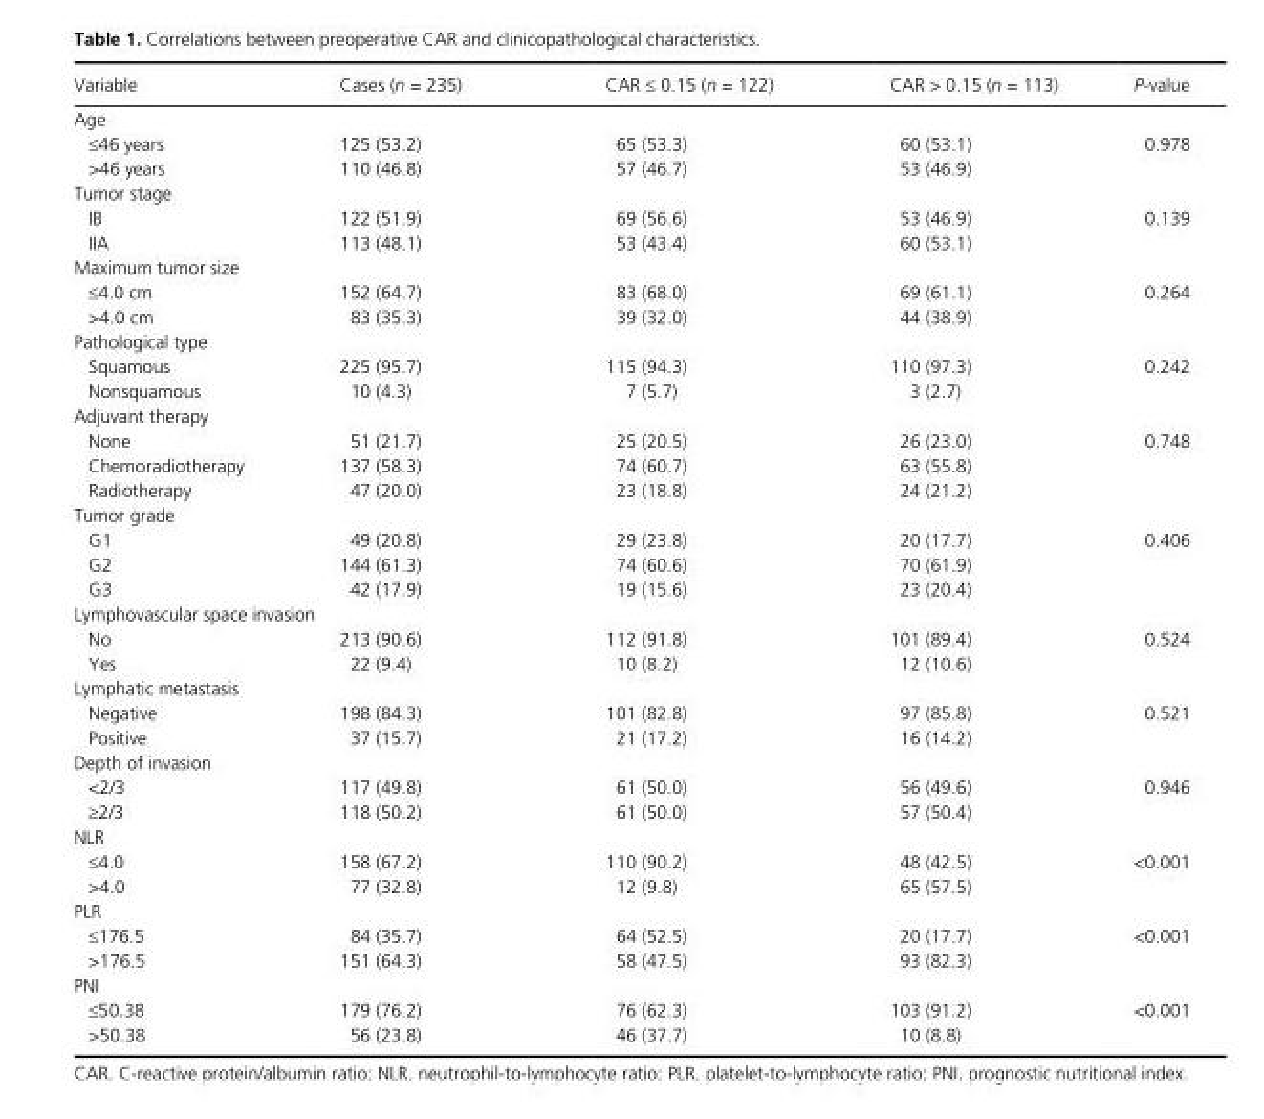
<table><thead><tr><td>Variable</td><td>Cases (n = 235)</td><td>CAR ≤ 0.15 (n = 122)</td><td>CAR &gt; 0.15 (n = 113)</td><td>P- value</td></tr></thead><tbody><tr><td colspan="5">Age</td></tr><tr><td>≤46 years</td><td>125 (53.2)</td><td>65 (53.3)</td><td>60 (53.1)</td><td rowspan="2">0.978</td></tr><tr><td>&gt;46 years</td><td>110 (46.8)</td><td>57 (46.7)</td><td>53 (46.9)</td></tr><tr><td colspan="5">Tumor stage</td></tr><tr><td>IB</td><td>122 (51.9)</td><td>69 (56.6)</td><td>53 (46.9)</td><td rowspan="2">0.139</td></tr><tr><td>IIA</td><td>113 (48.1)</td><td>53 (43.4)</td><td>60 (53.1)</td></tr><tr><td colspan="5">Maximum tumor size</td></tr><tr><td>≤4.0 cm</td><td>152 (64.7)</td><td>83 (68.0)</td><td>69 (61.1)</td><td rowspan="2">0.264</td></tr><tr><td>&gt;4.0 cm</td><td>83 (35.3)</td><td>39 (32.0)</td><td>44 (38.9)</td></tr><tr><td colspan="5">Pathological type</td></tr><tr><td>Squamous</td><td>225 (95.7)</td><td>115 (94.3)</td><td>110 (97.3)</td><td rowspan="2">0.242</td></tr><tr><td>Nonsquamous</td><td>10 (4.3)</td><td>7 (5.7)</td><td>3 (2.7)</td></tr><tr><td colspan="5">Adjuvant therapy</td></tr><tr><td>None</td><td>51 (21.7)</td><td>25 (20.5)</td><td>26 (23.0)</td><td rowspan="3">0.748</td></tr><tr><td>Chemoradiotherapy</td><td>137 (58.3)</td><td>74 (60.7)</td><td>63 (55.8)</td></tr><tr><td>Radiotherapy</td><td>47 (20.0)</td><td>23 (18.8)</td><td>24 (21.2)</td></tr><tr><td colspan="5">Tumor grade</td></tr><tr><td>G1</td><td>49 (20.8)</td><td>29 (23.8)</td><td>20 (17.7)</td><td rowspan="3">0.406</td></tr><tr><td>G2</td><td>144 (61.3)</td><td>74 (60.6)</td><td>70 (61.9)</td></tr><tr><td>G3</td><td>42 (17.9)</td><td>19 (15.6)</td><td>23 (20.4)</td></tr><tr><td colspan="5">Lymphovascular space invasion</td></tr><tr><td>No</td><td>213 (90.6)</td><td>112 (91.8)</td><td>101 (89.4)</td><td rowspan="2">0.524</td></tr><tr><td>Yes</td><td>22 (9.4)</td><td>10 (8.2)</td><td>12 (10.6)</td></tr><tr><td colspan="5">Lymphatic metastasis</td></tr><tr><td>Negative</td><td>198 (84.3)</td><td>101 (82.8)</td><td>97 (85.8)</td><td rowspan="2">0.521</td></tr><tr><td>Positive</td><td>37 (15.7)</td><td>21 (17.2)</td><td>16 (14.2)</td></tr><tr><td colspan="5">Depth of invasion</td></tr><tr><td>&lt;2/3</td><td>117 (49.8)</td><td>61 (50.0)</td><td>56 (49.6)</td><td rowspan="2">0.946</td></tr><tr><td>≥2/3</td><td>118 (50.2)</td><td>61 (50.0)</td><td>57 (50.4)</td></tr><tr><td colspan="5">NLR</td></tr><tr><td>≤4.0</td><td>158 (67.2)</td><td>110 (90.2)</td><td>48 (42.5)</td><td rowspan="2">&lt;0.001</td></tr><tr><td>&gt;4.0</td><td>77 (32.8)</td><td>12 (9.8)</td><td>65 (57.5)</td></tr><tr><td colspan="5">PLR</td></tr><tr><td>≤176.5</td><td>84 (35.7)</td><td>64 (52.5)</td><td>20 (17.7)</td><td rowspan="2">&lt;0.001</td></tr><tr><td>&gt;176.5</td><td>151 (64.3)</td><td>58 (47.5)</td><td>93 (82.3)</td></tr><tr><td colspan="5">PNI</td></tr><tr><td>≤50.38</td><td>179 (76.2)</td><td>76 (62.3)</td><td>103 (91.2)</td><td rowspan="2">&lt;0.001</td></tr><tr><td>&gt;50.38</td><td>56 (23.8)</td><td>46 (37.7)</td><td>10 (8.8)</td></tr></tbody></table>